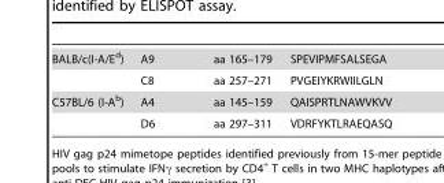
<table><tbody><tr><td rowspan="2">BALB/c(I-A/E<sup>d</sup>)</td><td>A9</td><td>aa 165–179</td><td>SPEVIPMFSALSEGA</td></tr><tr><td>C8</td><td>aa 257–271</td><td>PVGEIYKRWIILGLN</td></tr><tr><td rowspan="2">C57BL/6 (I-A<sup>b</sup>)</td><td>A4</td><td>aa 145–159</td><td>QAISPRTLNAWVKVV</td></tr><tr><td>D6</td><td>aa 297–311</td><td>VDRFYKTLRAEQASQ</td></tr></tbody></table>